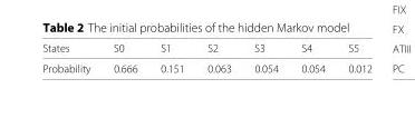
<table><thead><tr><td>States</td><td>S0</td><td>S1</td><td>S2</td><td>S3</td><td>S4</td><td>S5</td></tr></thead><tbody><tr><td>Probability</td><td>0.666</td><td>0.151</td><td>0.063</td><td>0.054</td><td>0.054</td><td>0.012</td></tr></tbody></table>